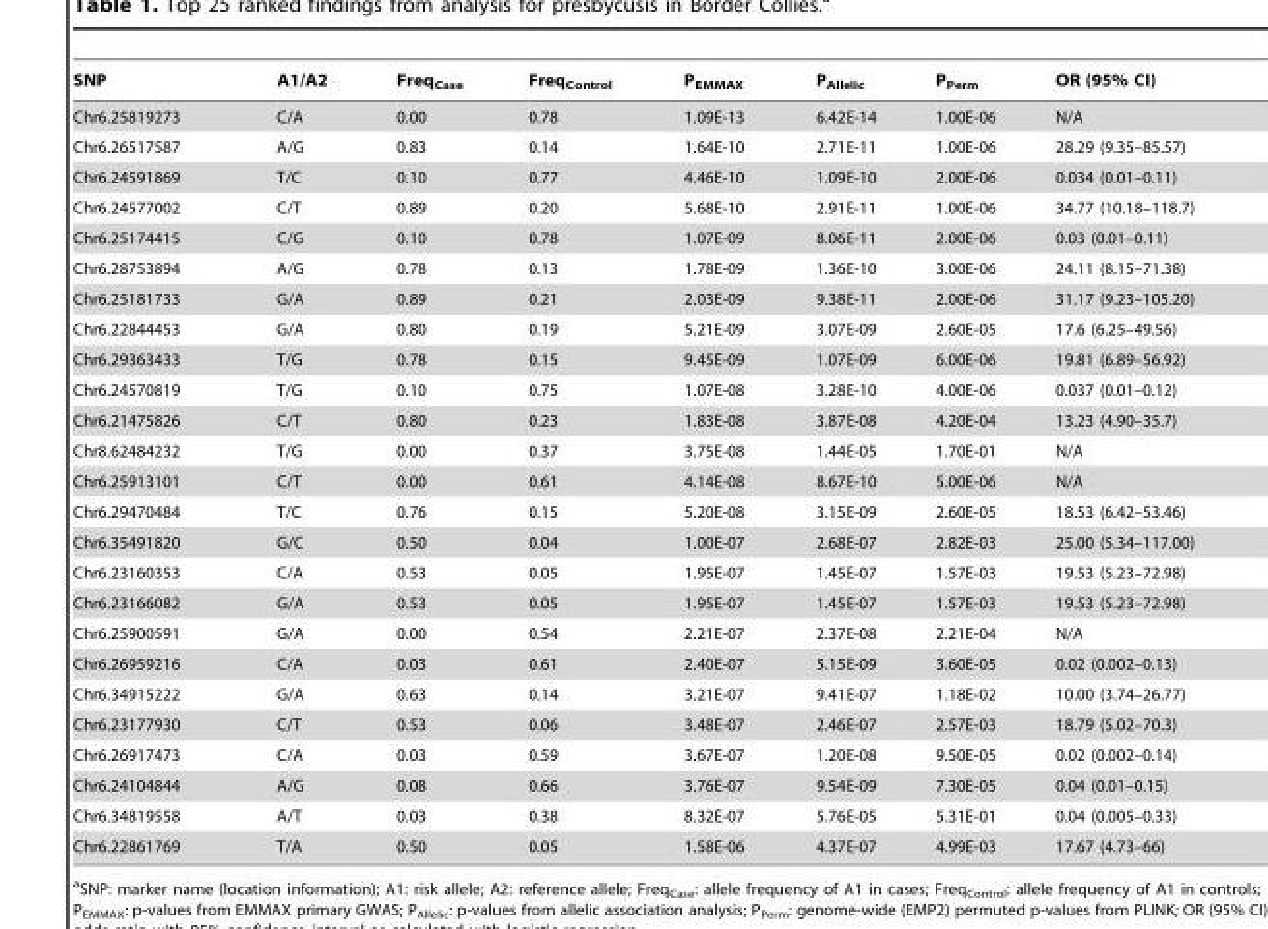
<table><thead><tr><td>SNP</td><td>A1/A2</td><td>Freq<sub>Case</sub></td><td>Freq<sub>Control</sub></td><td>P<sub>EMMAX</sub></td><td>P<sub>Allelic</sub></td><td>P<sub>Perm</sub></td><td>OR (95% CI)</td></tr></thead><tbody><tr><td>Chr6.25819273</td><td>C/A</td><td>0.00</td><td>0.78</td><td>1.09E-13</td><td>6.42E-14</td><td>1.00E-06</td><td>N/A</td></tr><tr><td>Chr6.26517587</td><td>A/G</td><td>0.83</td><td>0.14</td><td>1.64E-10</td><td>2.71E-11</td><td>1.00E-06</td><td>28.29 (9.35–85.57)</td></tr><tr><td>Chr6.24591869</td><td>T/C</td><td>0.10</td><td>0.77</td><td>4.46E-10</td><td>1.09E-10</td><td>2.00E-06</td><td>0.034 (0.01–0.11)</td></tr><tr><td>Chr6.24577002</td><td>C/T</td><td>0.89</td><td>0.20</td><td>5.68E-10</td><td>2.91E-11</td><td>1.00E-06</td><td>34.77 (10.18–118.7)</td></tr><tr><td>Chr6.25174415</td><td>C/G</td><td>0.10</td><td>0.78</td><td>1.07E-09</td><td>8.06E-11</td><td>2.00E-06</td><td>0.03 (0.01–0.11)</td></tr><tr><td>Chr6.28753894</td><td>A/G</td><td>0.78</td><td>0.13</td><td>1.78E-09</td><td>1.36E-10</td><td>3.00E-06</td><td>24.11 (8.15–71.38)</td></tr><tr><td>Chr6.25181733</td><td>G/A</td><td>0.89</td><td>0.21</td><td>2.03E-09</td><td>9.38E-11</td><td>2.00E-06</td><td>31.17 (9.23–105.20)</td></tr><tr><td>Chr6.22844453</td><td>G/A</td><td>0.80</td><td>0.19</td><td>5.21E-09</td><td>3.07E-09</td><td>2.60E-05</td><td>17.6 (6.25–49.56)</td></tr><tr><td>Chr6.29363433</td><td>T/G</td><td>0.78</td><td>0.15</td><td>9.45E-09</td><td>1.07E-09</td><td>6.00E-06</td><td>19.81 (6.89–56.92)</td></tr><tr><td>Chr6.24570819</td><td>T/G</td><td>0.10</td><td>0.75</td><td>1.07E-08</td><td>3.28E-10</td><td>4.00E-06</td><td>0.037 (0.01–0.12)</td></tr><tr><td>Chr6.21475826</td><td>C/T</td><td>0.80</td><td>0.23</td><td>1.83E-08</td><td>3.87E-08</td><td>4.20E-04</td><td>13.23 (4.90–35.7)</td></tr><tr><td>Chr8.62484232</td><td>T/G</td><td>0.00</td><td>0.37</td><td>3.75E-08</td><td>1.44E-05</td><td>1.70E-01</td><td>N/A</td></tr><tr><td>Chr6.25913101</td><td>C/T</td><td>0.00</td><td>0.61</td><td>4.14E-08</td><td>8.67E-10</td><td>5.00E-06</td><td>N/A</td></tr><tr><td>Chr6.29470484</td><td>T/C</td><td>0.76</td><td>0.15</td><td>5.20E-08</td><td>3.15E-09</td><td>2.60E-05</td><td>18.53 (6.42–53.46)</td></tr><tr><td>Chr6.35491820</td><td>G/C</td><td>0.50</td><td>0.04</td><td>1.00E-07</td><td>2.68E-07</td><td>2.82E-03</td><td>25.00 (5.34–117.00)</td></tr><tr><td>Chr6.23160353</td><td>C/A</td><td>0.53</td><td>0.05</td><td>1.95E-07</td><td>1.45E-07</td><td>1.57E-03</td><td>19.53 (5.23–72.98)</td></tr><tr><td>Chr6.23166082</td><td>G/A</td><td>0.53</td><td>0.05</td><td>1.95E-07</td><td>1.45E-07</td><td>1.57E-03</td><td>19.53 (5.23–72.98)</td></tr><tr><td>Chr6.25900591</td><td>G/A</td><td>0.00</td><td>0.54</td><td>2.21E-07</td><td>2.37E-08</td><td>2.21E-04</td><td>N/A</td></tr><tr><td>Chr6.26959216</td><td>C/A</td><td>0.03</td><td>0.61</td><td>2.40E-07</td><td>5.15E-09</td><td>3.60E-05</td><td>0.02 (0.002–0.13)</td></tr><tr><td>Chr6.34915222</td><td>G/A</td><td>0.63</td><td>0.14</td><td>3.21E-07</td><td>9.41E-07</td><td>1.18E-02</td><td>10.00 (3.74–26.77)</td></tr><tr><td>Chr6.23177930</td><td>C/T</td><td>0.53</td><td>0.06</td><td>3.48E-07</td><td>2.46E-07</td><td>2.57E-03</td><td>18.79 (5.02–70.3)</td></tr><tr><td>Chr6.26917473</td><td>C/A</td><td>0.03</td><td>0.59</td><td>3.67E-07</td><td>1.20E-08</td><td>9.50E-05</td><td>0.02 (0.002–0.14)</td></tr><tr><td>Chr6.24104844</td><td>A/G</td><td>0.08</td><td>0.66</td><td>3.76E-07</td><td>9.54E-09</td><td>7.30E-05</td><td>0.04 (0.01–0.15)</td></tr><tr><td>Chr6.34819558</td><td>A/T</td><td>0.03</td><td>0.38</td><td>8.32E-07</td><td>5.76E-05</td><td>5.31E-01</td><td>0.04 (0.005–0.33)</td></tr><tr><td>Chr6.22861769</td><td>T/A</td><td>0.50</td><td>0.05</td><td>1.58E-06</td><td>4.37E-07</td><td>4.99E-03</td><td>17.67 (4.73–66)</td></tr></tbody></table>